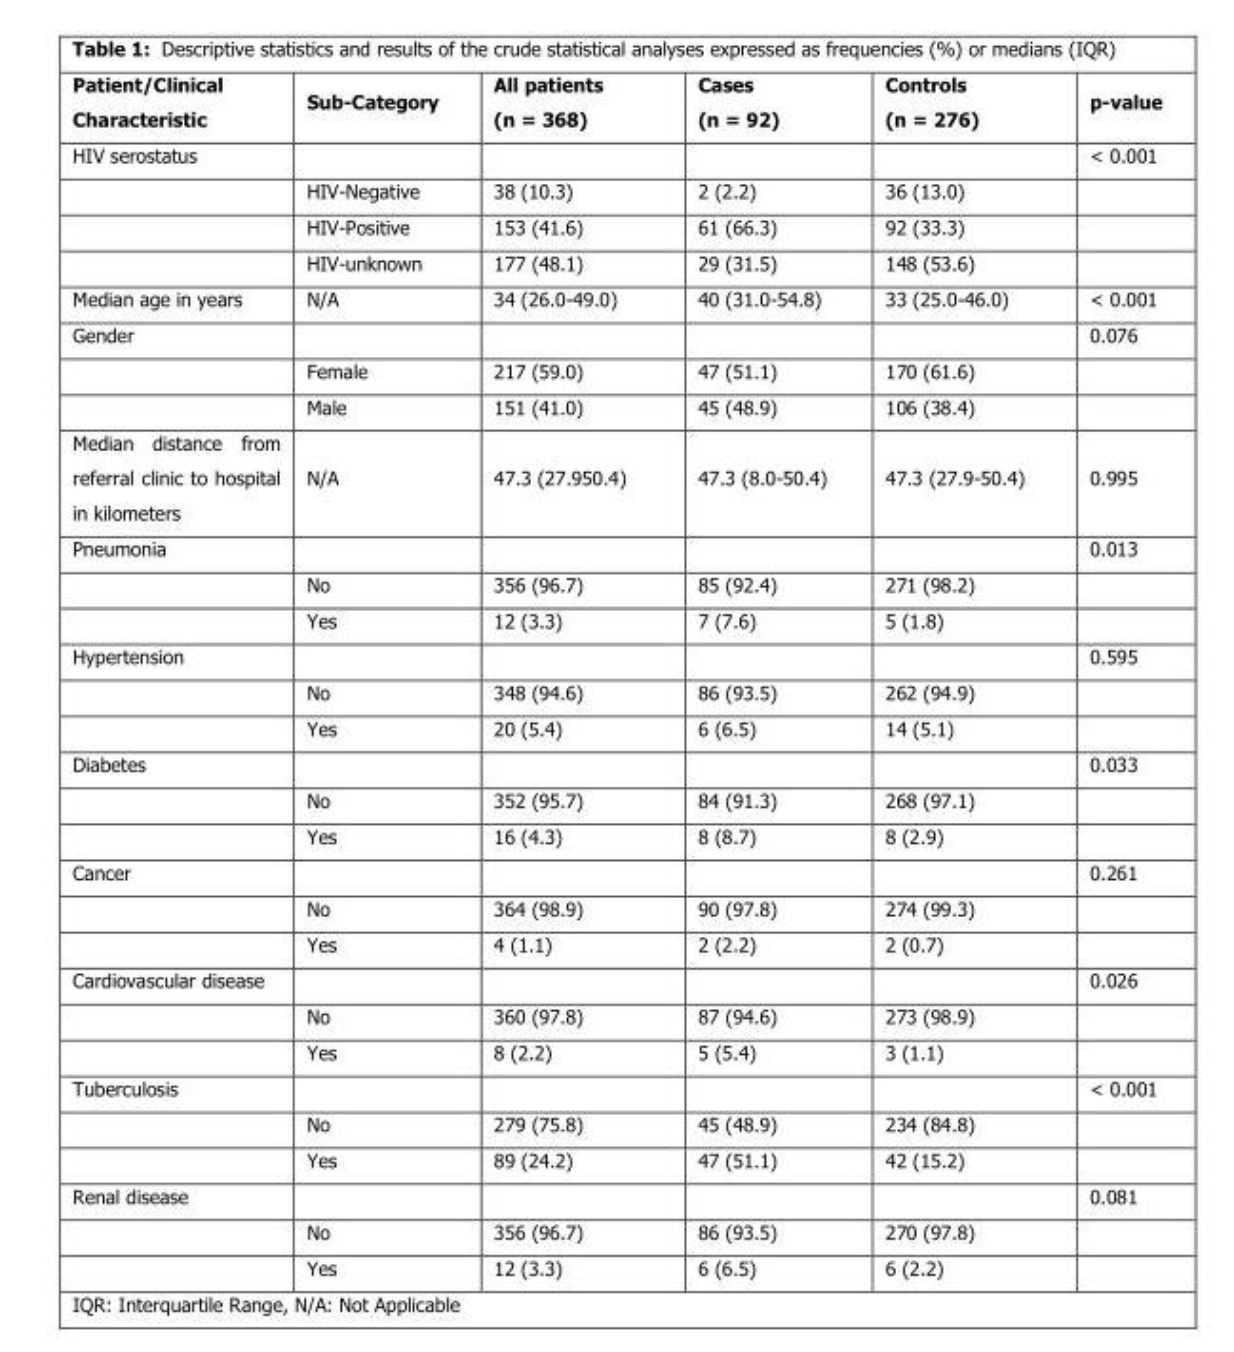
<table><thead><tr><td>Patient/Clinical Characteristic</td><td>Sub-Category</td><td>All patients (n = 368)</td><td>Cases (n = 92)</td><td>Controls (n = 276)</td><td>p-value</td></tr></thead><tbody><tr><td rowspan="4">HIV serostatus</td><td></td><td></td><td></td><td></td><td>&lt; 0.001</td></tr><tr><td>HIV-Negative</td><td>38 (10.3)</td><td>2 (2.2)</td><td>36 (13.0)</td><td></td></tr><tr><td>HIV-Positive</td><td>153 (41.6)</td><td>61 (66.3)</td><td>92 (33.3)</td><td></td></tr><tr><td>HIV-unknown</td><td>177 (48.1)</td><td>29 (31.5)</td><td>148 (53.6)</td><td></td></tr><tr><td>Median age in years</td><td>N/A</td><td>34 (26.0-49.0)</td><td>40 (31.0-54.8)</td><td>33 (25.0-46.0)</td><td>&lt; 0.001</td></tr><tr><td rowspan="3">Gender</td><td></td><td></td><td></td><td></td><td>0.076</td></tr><tr><td>Female</td><td>217 (59.0)</td><td>47 (51.1)</td><td>170 (61.6)</td><td></td></tr><tr><td>Male</td><td>151 (41.0)</td><td>45 (48.9)</td><td>106 (38.4)</td><td></td></tr><tr><td>Median distance from referral clinic to hospital in kilometers</td><td>N/A</td><td>47.3 (27.950.4)</td><td>47.3 (8.0-50.4)</td><td>47.3 (27.9-50.4)</td><td>0.995</td></tr><tr><td rowspan="3">Pneumonia</td><td></td><td></td><td></td><td></td><td>0.013</td></tr><tr><td>No</td><td>356 (96.7)</td><td>85 (92.4)</td><td>271 (98.2)</td><td></td></tr><tr><td>Yes</td><td>12 (3.3)</td><td>7 (7.6)</td><td>5 (1.8)</td><td></td></tr><tr><td rowspan="3">Hypertension</td><td></td><td></td><td></td><td></td><td>0.595</td></tr><tr><td>No</td><td>348 (94.6)</td><td>86 (93.5)</td><td>262 (94.9)</td><td></td></tr><tr><td>Yes</td><td>20 (5.4)</td><td>6 (6.5)</td><td>14 (5.1)</td><td></td></tr><tr><td rowspan="3">Diabetes</td><td></td><td></td><td></td><td></td><td>0.033</td></tr><tr><td>No</td><td>352 (95.7)</td><td>84 (91.3)</td><td>268 (97.1)</td><td></td></tr><tr><td>Yes</td><td>16 (4.3)</td><td>8 (8.7)</td><td>8 (2.9)</td><td></td></tr><tr><td rowspan="3">Cancer</td><td></td><td></td><td></td><td></td><td>0.261</td></tr><tr><td>No</td><td>364 (98.9)</td><td>90 (97.8)</td><td>274 (99.3)</td><td></td></tr><tr><td>Yes</td><td>4 (1.1)</td><td>2 (2.2)</td><td>2 (0.7)</td><td></td></tr><tr><td rowspan="3">Cardiovascular disease</td><td></td><td></td><td></td><td></td><td>0.026</td></tr><tr><td>No</td><td>360 (97.8)</td><td>87 (94.6)</td><td>273 (98.9)</td><td></td></tr><tr><td>Yes</td><td>8 (2.2)</td><td>5 (5.4)</td><td>3 (1.1)</td><td></td></tr><tr><td rowspan="3">Tuberculosis</td><td></td><td></td><td></td><td></td><td>&lt; 0.001</td></tr><tr><td>No</td><td>279 (75.8)</td><td>45 (48.9)</td><td>234 (84.8)</td><td></td></tr><tr><td>Yes</td><td>89 (24.2)</td><td>47 (51.1)</td><td>42 (15.2)</td><td></td></tr><tr><td rowspan="3">Renal disease</td><td></td><td></td><td></td><td></td><td>0.081</td></tr><tr><td>No</td><td>356 (96.7)</td><td>86 (93.5)</td><td>270 (97.8)</td><td></td></tr><tr><td>Yes</td><td>12 (3.3)</td><td>6 (6.5)</td><td>6 (2.2)</td><td></td></tr></tbody></table>